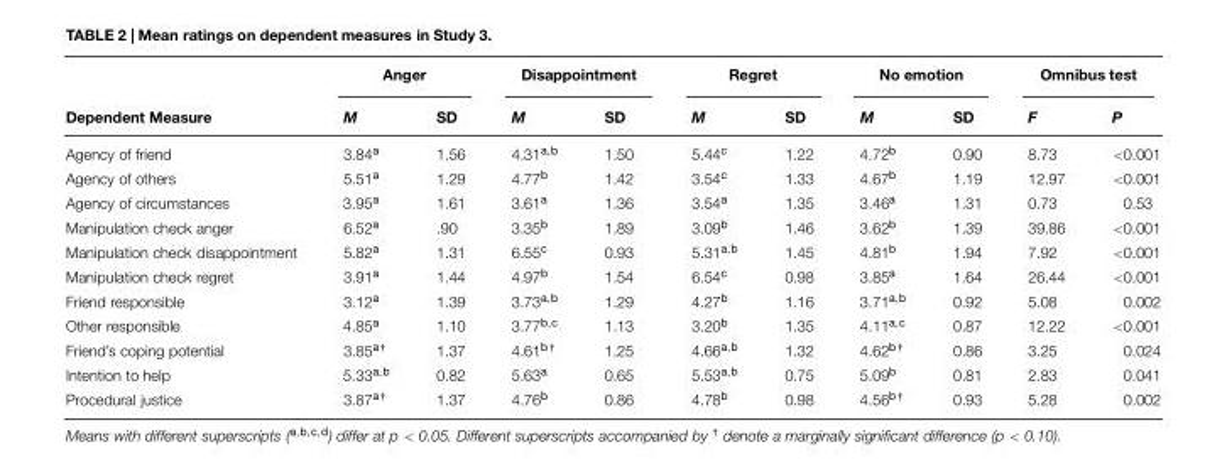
<table><thead><tr><td rowspan="2">Dependent Measure</td><td colspan="2">Anger</td><td colspan="2">Disappointment</td><td colspan="2">Regret</td><td colspan="2">No emotion</td><td colspan="2">Omnibus test</td></tr><tr><td>M</td><td>SD</td><td>M</td><td>SD</td><td>M</td><td>SD</td><td>M</td><td>SD</td><td>F</td><td>P</td></tr></thead><tbody><tr><td>Agency of friend</td><td>3.84<sup>a</sup></td><td>1.56</td><td>4.31<sup>a,b</sup></td><td>1.50</td><td>5.44<sup>c</sup></td><td>1.22</td><td>4.72<sup>b</sup></td><td>0.90</td><td>8.73</td><td>&lt;0.001</td></tr><tr><td>Agency of others</td><td>5.51<sup>a</sup></td><td>1.29</td><td>4.77<sup>b</sup></td><td>1.42</td><td>3.54<sup>c</sup></td><td>1.33</td><td>4.67<sup>b</sup></td><td>1.19</td><td>12.97</td><td>&lt;0.001</td></tr><tr><td>Agency of circumstances</td><td>3.95<sup>a</sup></td><td>1.61</td><td>3.61<sup>a</sup></td><td>1.36</td><td>3.54<sup>a</sup></td><td>1.35</td><td>3.46<sup>a</sup></td><td>1.31</td><td>0.73</td><td>0.53</td></tr><tr><td>Manipulation check anger</td><td>6.52<sup>a</sup></td><td>.90</td><td>3.35<sup>b</sup></td><td>1.89</td><td>3.09<sup>b</sup></td><td>1.46</td><td>3.62<sup>b</sup></td><td>1.39</td><td>39.86</td><td>&lt;0.001</td></tr><tr><td>Manipulation check disappointment</td><td>5.82<sup>a</sup></td><td>1.31</td><td>6.55<sup>c</sup></td><td>0.93</td><td>5.31<sup>a,b</sup></td><td>1.45</td><td>4.81<sup>b</sup></td><td>1.94</td><td>7.92</td><td>&lt;0.001</td></tr><tr><td>Manipulation check regret</td><td>3.91<sup>a</sup></td><td>1.44</td><td>4.97<sup>b</sup></td><td>1.54</td><td>6.54<sup>c</sup></td><td>0.98</td><td>3.85<sup>a</sup></td><td>1.64</td><td>26.44</td><td>&lt;0.001</td></tr><tr><td>Friend responsible</td><td>3.12<sup>a</sup></td><td>1.39</td><td>3.73<sup>a,b</sup></td><td>1.29</td><td>4.27<sup>b</sup></td><td>1.16</td><td>3.71<sup>a,b</sup></td><td>0.92</td><td>5.08</td><td>0.002</td></tr><tr><td>Other responsible</td><td>4.85<sup>a</sup></td><td>1.10</td><td>3.77<sup>b,c</sup></td><td>1.13</td><td>3.20<sup>b</sup></td><td>1.35</td><td>4.11<sup>a,c</sup></td><td>0.87</td><td>12.22</td><td>&lt;0.001</td></tr><tr><td>Friend’s coping potential</td><td>3.85<sup>a†</sup></td><td>1.37</td><td>4.61<sup>b†</sup></td><td>1.25</td><td>4.66<sup>a,b</sup></td><td>1.32</td><td>4.62<sup>b†</sup></td><td>0.86</td><td>3.25</td><td>0.024</td></tr><tr><td>Intention to help</td><td>5.33<sup>a,b</sup></td><td>0.82</td><td>5.63<sup>a</sup></td><td>0.65</td><td>5.53<sup>a,b</sup></td><td>0.75</td><td>5.09<sup>b</sup></td><td>0.81</td><td>2.83</td><td>0.041</td></tr><tr><td>Procedural justice</td><td>3.87<sup>a†</sup></td><td>1.37</td><td>4.76<sup>b</sup></td><td>0.86</td><td>4.78<sup>b</sup></td><td>0.98</td><td>4.56<sup>b†</sup></td><td>0.93</td><td>5.28</td><td>0.002</td></tr></tbody></table>